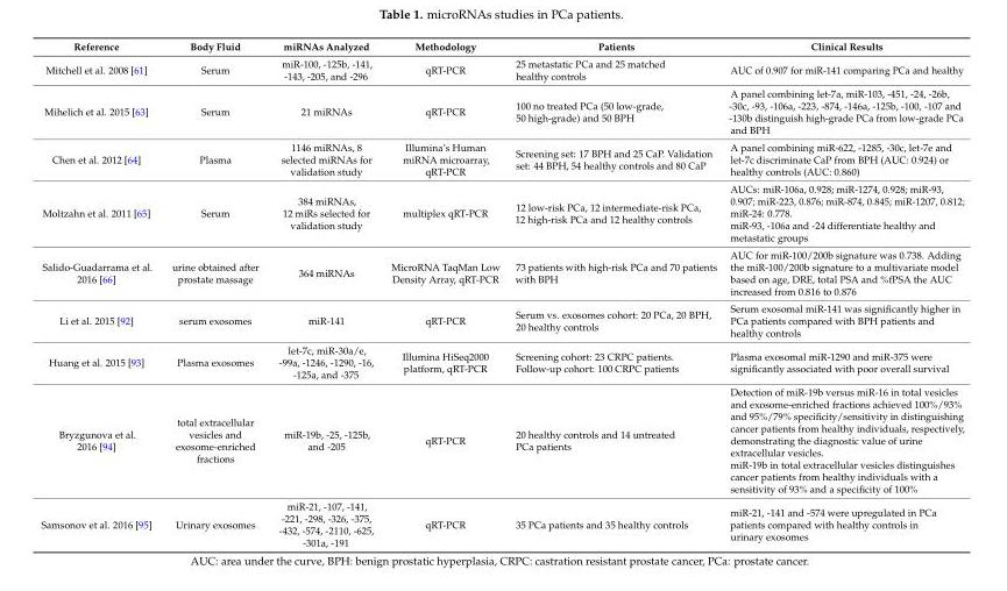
<table><thead><tr><td>Reference</td><td>Body Fluid</td><td>miRNAs Analyzed</td><td>Methodology</td><td>Patients</td><td>Clinical Results</td></tr></thead><tbody><tr><td>Mitchell et al. 2008 [61]</td><td>Serum</td><td>miR-100, -125b, -141, -143, -205, and -296</td><td>qRT-PCR</td><td>25 metastatic PCa and 25 matched healthy controls</td><td>AUC of 0.907 for miR-141 comparing PCa and healthy</td></tr><tr><td>Mihelich et al. 2015 [63]</td><td>Serum</td><td>21 miRNAs</td><td>qRT-PCR</td><td>100 no treated PCa (50 low-grade, 50 high-grade) and 50 BPH</td><td>A panel combining let-7a, miR-103, -451, -24, -26b, -30c, -93, -106a, -223, -874, -146a, -125b, -100, -107 and -130b distinguish high-grade PCa from low-grade PCa and BPH</td></tr><tr><td>Chen et al. 2012 [64]</td><td>Plasma</td><td>1146 miRNAs, 8 selected miRNAs for validation study</td><td>Illumina’s Human miRNA microarray, qRT-PCR</td><td>Screening set: 17 BPH and 25 CaP. Validation set: 44 BPH, 54 healthy controls and 80 CaP</td><td>A panel combining miR-622, -1285, -30c, let-7e and let-7c discriminate CaP from BPH (AUC: 0.924) or healthy controls (AUC: 0.860)</td></tr><tr><td>Moltzahn et al. 2011 [65]</td><td>Serum</td><td>384 miRNAs, 12 miRs selected for validation study</td><td>multiplex qRT-PCR</td><td>12 low-risk PCa, 12 intermediate-risk PCa, 12 high-risk PCa and 12 healthy controls</td><td>AUCs: miR-106a, 0.928; miR-1274, 0.928; miR-93, 0.907; miR-223, 0.876; miR-874, 0.845; miR-1207, 0.812; miR-24: 0.778. miR-93, -106a and -24 differentiate healthy and metastatic groups</td></tr><tr><td>Salido-Guadarrama et al. 2016 [66]</td><td>urine obtained after prostate massage</td><td>364 miRNAs</td><td>MicroRNA TaqMan Low Density Array, qRT-PCR</td><td>73 patients with high-risk PCa and 70 patients with BPH</td><td>AUC for miR-100/200b signature was 0.738. Adding the miR-100/200b signature to a multivariate model based on age, DRE, total PSA and %fPSA the AUC increased from 0.816 to 0.876</td></tr><tr><td>Li et al. 2015 [92]</td><td>serum exosomes</td><td>miR-141</td><td>qRT-PCR</td><td>Serum vs. exosomes cohort: 20 PCa, 20 BPH, 20 healthy controls</td><td>Serum exosomal miR-141 was significantly higher in PCa patients compared with BPH patients and healthy controls</td></tr><tr><td>Huang et al. 2015 [93]</td><td>Plasma exosomes</td><td>let-7c, miR-30a/e, -99a, -1246, -1290, -16, -125a, and -375</td><td>Illumina HiSeq2000 platform, qRT-PCR</td><td>Screening cohort: 23 CRPC patients. Follow-up cohort: 100 CRPC patients</td><td>Plasma exosomal miR-1290 and miR-375 were significantly associated with poor overall survival</td></tr><tr><td>Bryzgunova et al. 2016 [94]</td><td>total extracellular vesicles and exosome-enriched fractions</td><td>miR-19b, -25, -125b, and -205</td><td>qRT-PCR</td><td>20 healthy controls and 14 untreated PCa patients</td><td>Detection of miR-19b versus miR-16 in total vesicles and exosome-enriched fractions achieved 100%/93% and 95%/79% specificity/sensitivity in distinguishing cancer patients from healthy individuals, respectively, demonstrating the diagnostic value of urine extracellular vesicles. miR-19b in total extracellular vesicles distinguishes cancer patients from healthy individuals with a sensitivity of 93% and a specificity of 100%</td></tr><tr><td>Samsonov et al. 2016 [95]</td><td>Urinary exosomes</td><td>miR-21, -107, -141, -221, -298, -326, -375, -432, -574, -2110, -625, -301a, -191</td><td>qRT-PCR</td><td>35 PCa patients and 35 healthy controls</td><td>miR-21, -141 and -574 were upregulated in PCa patients compared with healthy controls in urinary exosomes</td></tr></tbody></table>